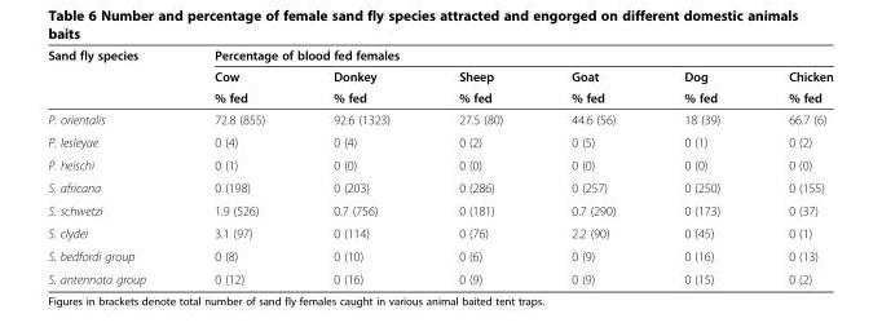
<table><thead><tr><td rowspan="3">Sand fly species</td><td colspan="6">Percentage of blood fed females</td></tr><tr><td rowspan="2">Cow % fed</td><td rowspan="2">Donkey % fed</td><td rowspan="2">Sheep % fed</td><td rowspan="2">Goat % fed</td><td rowspan="2">Dog % fed</td><td rowspan="2">Chicken % fed</td></tr><tr></tr></thead><tbody><tr><td>P. orientalis</td><td>72.8 (855)</td><td>92.6 (1323)</td><td>27.5 (80)</td><td>44.6 (56)</td><td>18 (39)</td><td>66.7 (6)</td></tr><tr><td>P. lesleyae</td><td>0 (4)</td><td>0 (4)</td><td>0 (2)</td><td>0 (5)</td><td>0 (1)</td><td>0 (2)</td></tr><tr><td>P. heischi</td><td>0 (1)</td><td>0 (0)</td><td>0 (0)</td><td>0 (0)</td><td>0 (0)</td><td>0 (0)</td></tr><tr><td>S. africana</td><td>0 (198)</td><td>0 (203)</td><td>0 (286)</td><td>0 (257)</td><td>0 (250)</td><td>0 (155)</td></tr><tr><td>S. schwetzi</td><td>1.9 (526)</td><td>0.7 (756)</td><td>0 (181)</td><td>0.7 (290)</td><td>0 (173)</td><td>0 (37)</td></tr><tr><td>S. clydei</td><td>3.1 (97)</td><td>0 (114)</td><td>0 (76)</td><td>2.2 (90)</td><td>0 (45)</td><td>0 (1)</td></tr><tr><td>S. bedfordi group</td><td>0 (8)</td><td>0 (10)</td><td>0 (6)</td><td>0 (9)</td><td>0 (16)</td><td>0 (13)</td></tr><tr><td>S. antennata group</td><td>0 (12)</td><td>0 (16)</td><td>0 (9)</td><td>0 (9)</td><td>0 (15)</td><td>0 (2)</td></tr></tbody></table>